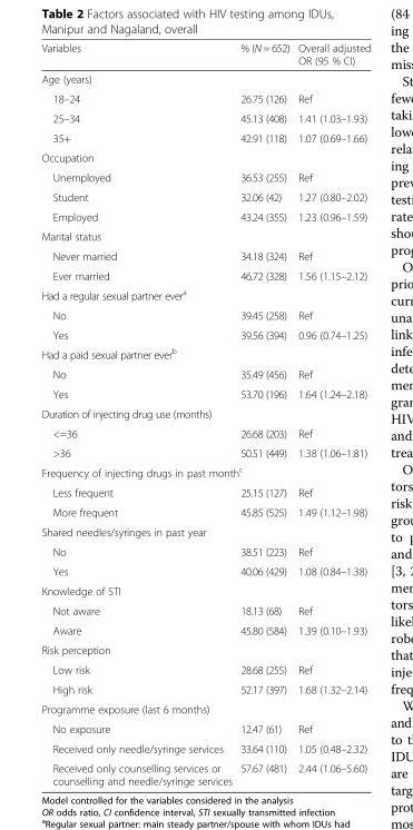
<table><thead><tr><td>Variables</td><td>% (N = 652)</td><td>Overall adjusted OR (95 % CI)</td></tr></thead><tbody><tr><td colspan="3">Age (years)</td></tr><tr><td>18–24</td><td>26.75 (126)</td><td>Ref</td></tr><tr><td>25–34</td><td>45.13 (408)</td><td>1.41 (1.03–1.93)</td></tr><tr><td>35+</td><td>42.91 (118)</td><td>1.07 (0.69–1.66)</td></tr><tr><td colspan="3">Occupation</td></tr><tr><td>Unemployed</td><td>36.53 (255)</td><td>Ref</td></tr><tr><td>Student</td><td>32.06 (42)</td><td>1.27 (0.80–2.02)</td></tr><tr><td>Employed</td><td>43.24 (355)</td><td>1.23 (0.96–1.59)</td></tr><tr><td colspan="3">Marital status</td></tr><tr><td>Never married</td><td>34.18 (324)</td><td>Ref</td></tr><tr><td>Ever married</td><td>46.72 (328)</td><td>1.56 (1.15–2.12)</td></tr><tr><td colspan="3">Had a regular sexual partner ever<sup>a</sup></td></tr><tr><td>No</td><td>39.45 (258)</td><td>Ref</td></tr><tr><td>Yes</td><td>39.56 (394)</td><td>0.96 (0.74–1.25)</td></tr><tr><td colspan="3">Had a paid sexual partner ever<sup>b</sup></td></tr><tr><td>No</td><td>35.49 (456)</td><td>Ref</td></tr><tr><td>Yes</td><td>53.70 (196)</td><td>1.64 (1.24–2.18)</td></tr><tr><td colspan="3">Duration of injecting drug use (months)</td></tr><tr><td>&lt;=36</td><td>26.68 (203)</td><td>Ref</td></tr><tr><td>&gt;36</td><td>50.51 (449)</td><td>1.38 (1.06–1.81)</td></tr><tr><td colspan="3">Frequency of injecting drugs in past month<sup>c</sup></td></tr><tr><td>Less frequent</td><td>25.15 (127)</td><td>Ref</td></tr><tr><td>More frequent</td><td>45.85 (525)</td><td>1.49 (1.12–1.98)</td></tr><tr><td colspan="3">Shared needles/syringes in past year</td></tr><tr><td>No</td><td>38.51 (223)</td><td>Ref</td></tr><tr><td>Yes</td><td>40.06 (429)</td><td>1.08 (0.84–1.38)</td></tr><tr><td colspan="3">Knowledge of STI</td></tr><tr><td>Not aware</td><td>18.13 (68)</td><td>Ref</td></tr><tr><td>Aware</td><td>45.80 (584)</td><td>1.39 (0.10–1.93)</td></tr><tr><td colspan="3">Risk perception</td></tr><tr><td>Low risk</td><td>28.68 (255)</td><td>Ref</td></tr><tr><td>High risk</td><td>52.17 (397)</td><td>1.68 (1.32–2.14)</td></tr><tr><td colspan="3">Programme exposure (last 6 months)</td></tr><tr><td>No exposure</td><td>12.47 (61)</td><td>Ref</td></tr><tr><td>Received only needle/syringe services</td><td>33.64 (110)</td><td>1.05 (0.48–2.32)</td></tr><tr><td>Received only counselling services or counselling and needle/syringe services</td><td>57.67 (481)</td><td>2.44 (1.06–5.60)</td></tr></tbody></table>